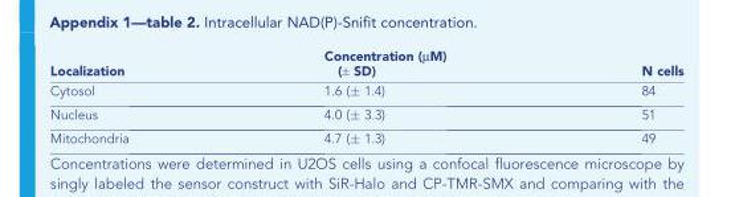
<table><thead><tr><td>Localization</td><td>Concentration (µM) (± SD)</td><td>N cells</td></tr></thead><tbody><tr><td>Cytosol</td><td>1.6 (± 1.4)</td><td>84</td></tr><tr><td>Nucleus</td><td>4.0 (± 3.3)</td><td>51</td></tr><tr><td>Mitochondria</td><td>4.7 (± 1.3)</td><td>49</td></tr></tbody></table>